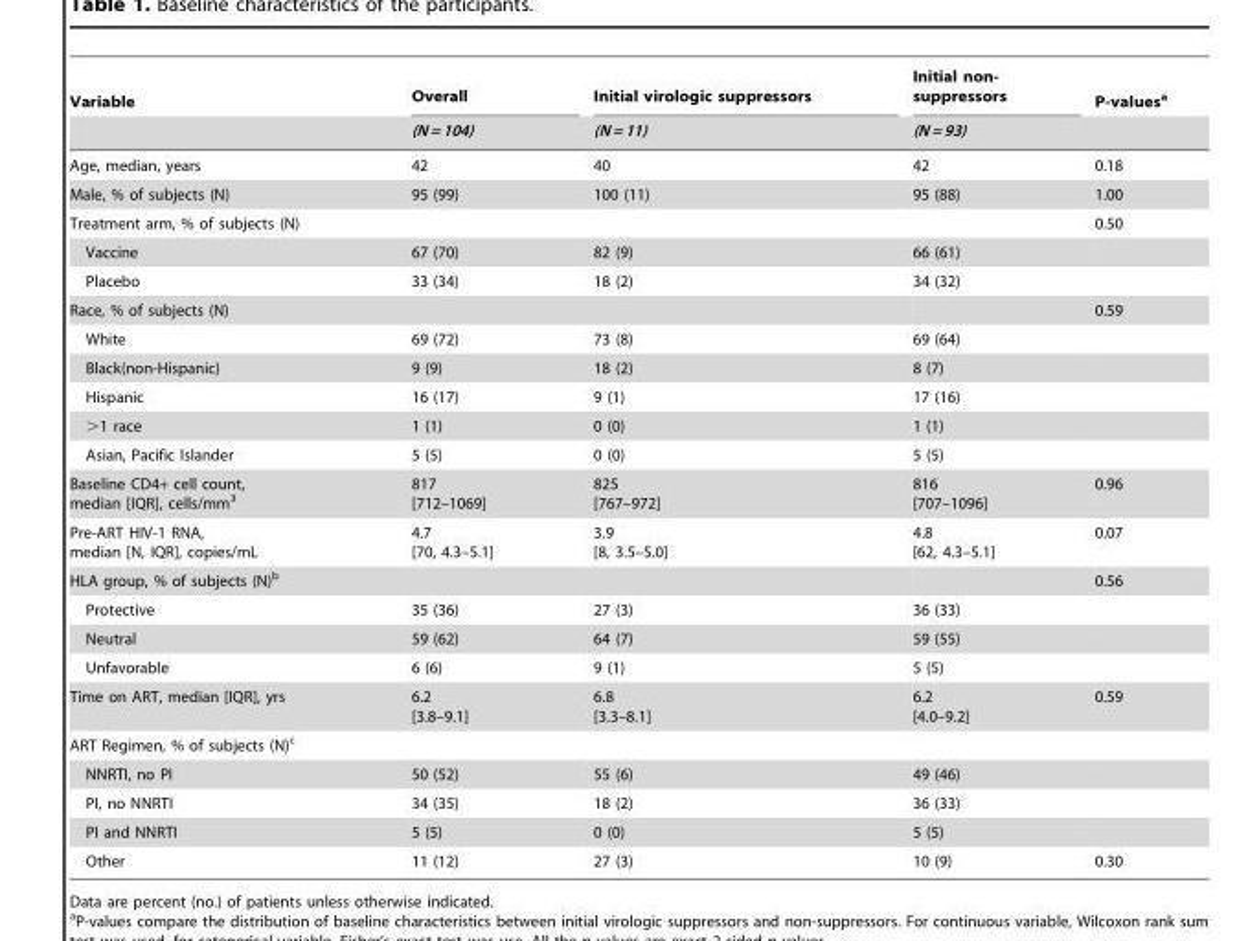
<table><thead><tr><td rowspan="2">Variable</td><td rowspan="2">Overall (N = 104)</td><td rowspan="2">Initial virologic suppressors (N = 11)</td><td rowspan="2">Initial non- suppressors (N = 93)</td><td rowspan="2">P-values<sup>a</sup></td></tr><tr></tr></thead><tbody><tr><td>Age, median, years</td><td>42</td><td>40</td><td>42</td><td>0.18</td></tr><tr><td>Male, % of subjects (N)</td><td>95 (99)</td><td>100 (11)</td><td>95 (88)</td><td>1.00</td></tr><tr><td>Treatment arm, % of subjects (N)</td><td></td><td></td><td></td><td>0.50</td></tr><tr><td>Vaccine</td><td>67 (70)</td><td>82 (9)</td><td>66 (61)</td><td></td></tr><tr><td>Placebo</td><td>33 (34)</td><td>18 (2)</td><td>34 (32)</td><td></td></tr><tr><td>Race, % of subjects (N)</td><td></td><td></td><td></td><td>0.59</td></tr><tr><td>White</td><td>69 (72)</td><td>73 (8)</td><td>69 (64)</td><td></td></tr><tr><td>Black(non-Hispanic)</td><td>9 (9)</td><td>18 (2)</td><td>8 (7)</td><td></td></tr><tr><td>Hispanic</td><td>16 (17)</td><td>9 (1)</td><td>17 (16)</td><td></td></tr><tr><td>&gt;1 race</td><td>1 (1)</td><td>0 (0)</td><td>1 (1)</td><td></td></tr><tr><td>Asian, Pacific Islander</td><td>5 (5)</td><td>0 (0)</td><td>5 (5)</td><td></td></tr><tr><td>Baseline CD4+ cell count, median [IQR], cells/mm<sup>3</sup></td><td>817 [712–1069]</td><td>825 [767–972]</td><td>816 [707–1096]</td><td>0.96</td></tr><tr><td>Pre-ART HIV-1 RNA, median [N, IQR], copies/mL</td><td>4.7 [70, 4.3–5.1]</td><td>3.9 [8, 3.5–5.0]</td><td>4.8 [62, 4.3–5.1]</td><td>0.07</td></tr><tr><td>HLA group, % of subjects (N)<sup>b</sup></td><td></td><td></td><td></td><td>0.56</td></tr><tr><td>Protective</td><td>35 (36)</td><td>27 (3)</td><td>36 (33)</td><td></td></tr><tr><td>Neutral</td><td>59 (62)</td><td>64 (7)</td><td>59 (55)</td><td></td></tr><tr><td>Unfavorable</td><td>6 (6)</td><td>9 (1)</td><td>5 (5)</td><td></td></tr><tr><td>Time on ART, median [IQR], yrs</td><td>6.2 [3.8–9.1]</td><td>6.8 [3.3–8.1]</td><td>6.2 [4.0–9.2]</td><td>0.59</td></tr><tr><td colspan="5">ART Regimen, % of subjects (N)<sup>c</sup></td></tr><tr><td>NNRTI, no PI</td><td>50 (52)</td><td>55 (6)</td><td>49 (46)</td><td></td></tr><tr><td>PI, no NNRTI</td><td>34 (35)</td><td>18 (2)</td><td>36 (33)</td><td></td></tr><tr><td>PI and NNRTI</td><td>5 (5)</td><td>0 (0)</td><td>5 (5)</td><td></td></tr><tr><td>Other</td><td>11 (12)</td><td>27 (3)</td><td>10 (9)</td><td>0.30</td></tr></tbody></table>